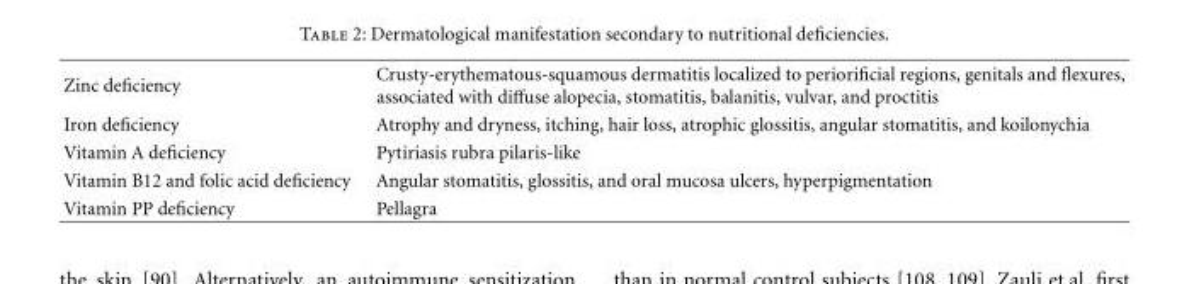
<table><tbody><tr><td>Zinc deficiency</td><td>Crusty-erythematous-squamous dermatitis localized to periorificial regions, genitals and flexures, associated with diffuse alopecia, stomatitis, balanitis, vulvar, and proctitis</td></tr><tr><td>Iron deficiency</td><td>Atrophy and dryness, itching, hair loss, atrophic glossitis, angular stomatitis, and koilonychia</td></tr><tr><td>Vitamin A deficiency</td><td>Pytiriasis rubra pilaris-like</td></tr><tr><td>Vitamin B12 and folic acid deficiency</td><td>Angular stomatitis, glossitis, and oral mucosa ulcers, hyperpigmentation</td></tr><tr><td>Vitamin PP deficiency</td><td>Pellagra</td></tr></tbody></table>